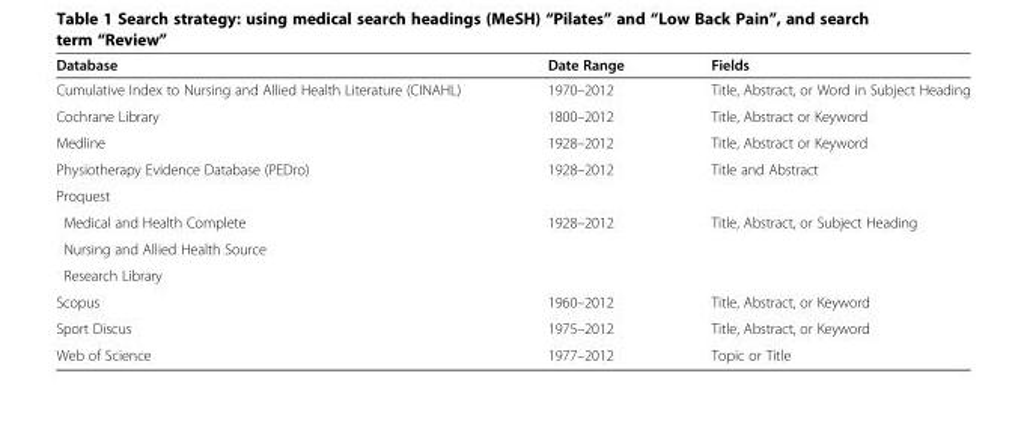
<table><thead><tr><td>Database</td><td>Date Range</td><td>Fields</td></tr></thead><tbody><tr><td>Cumulative Index to Nursing and Allied Health Literature (CINAHL)</td><td>1970–2012</td><td>Title, Abstract, or Word in Subject Heading</td></tr><tr><td>Cochrane Library</td><td>1800–2012</td><td>Title, Abstract or Keyword</td></tr><tr><td>Medline</td><td>1928–2012</td><td>Title, Abstract or Keyword</td></tr><tr><td>Physiotherapy Evidence Database (PEDro)</td><td>1928–2012</td><td>Title and Abstract</td></tr><tr><td colspan="3">Proquest</td></tr><tr><td>Medical and Health Complete</td><td rowspan="3">1928–2012</td><td rowspan="3">Title, Abstract, or Subject Heading</td></tr><tr><td>Nursing and Allied Health Source</td></tr><tr><td>Research Library</td></tr><tr><td>Scopus</td><td>1960–2012</td><td>Title, Abstract, or Keyword</td></tr><tr><td>Sport Discus</td><td>1975–2012</td><td>Title, Abstract, or Keyword</td></tr><tr><td>Web of Science</td><td>1977–2012</td><td>Topic or Title</td></tr></tbody></table>